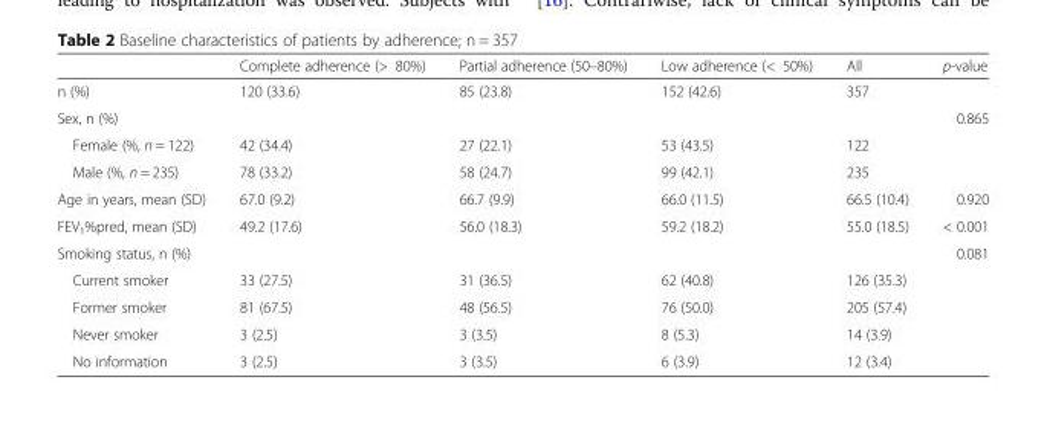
<table><thead><tr><td></td><td>Complete adherence (&gt; 80%)</td><td>Partial adherence (50–80%)</td><td>Low adherence (&lt; 50%)</td><td>All</td><td>p-value</td></tr></thead><tbody><tr><td>n (%)</td><td>120 (33.6)</td><td>85 (23.8)</td><td>152 (42.6)</td><td>357</td><td></td></tr><tr><td>Sex, n (%)</td><td></td><td></td><td></td><td></td><td>0.865</td></tr><tr><td>Female (%, n = 122)</td><td>42 (34.4)</td><td>27 (22.1)</td><td>53 (43.5)</td><td>122</td><td></td></tr><tr><td>Male (%, n = 235)</td><td>78 (33.2)</td><td>58 (24.7)</td><td>99 (42.1)</td><td>235</td><td></td></tr><tr><td>Age in years, mean (SD)</td><td>67.0 (9.2)</td><td>66.7 (9.9)</td><td>66.0 (11.5)</td><td>66.5 (10.4)</td><td>0.920</td></tr><tr><td>FEV<sub>1</sub>%pred, mean (SD)</td><td>49.2 (17.6)</td><td>56.0 (18.3)</td><td>59.2 (18.2)</td><td>55.0 (18.5)</td><td>&lt; 0.001</td></tr><tr><td>Smoking status, n (%)</td><td></td><td></td><td></td><td></td><td>0.081</td></tr><tr><td>Current smoker</td><td>33 (27.5)</td><td>31 (36.5)</td><td>62 (40.8)</td><td>126 (35.3)</td><td></td></tr><tr><td>Former smoker</td><td>81 (67.5)</td><td>48 (56.5)</td><td>76 (50.0)</td><td>205 (57.4)</td><td></td></tr><tr><td>Never smoker</td><td>3 (2.5)</td><td>3 (3.5)</td><td>8 (5.3)</td><td>14 (3.9)</td><td></td></tr><tr><td>No information</td><td>3 (2.5)</td><td>3 (3.5)</td><td>6 (3.9)</td><td>12 (3.4)</td><td></td></tr></tbody></table>